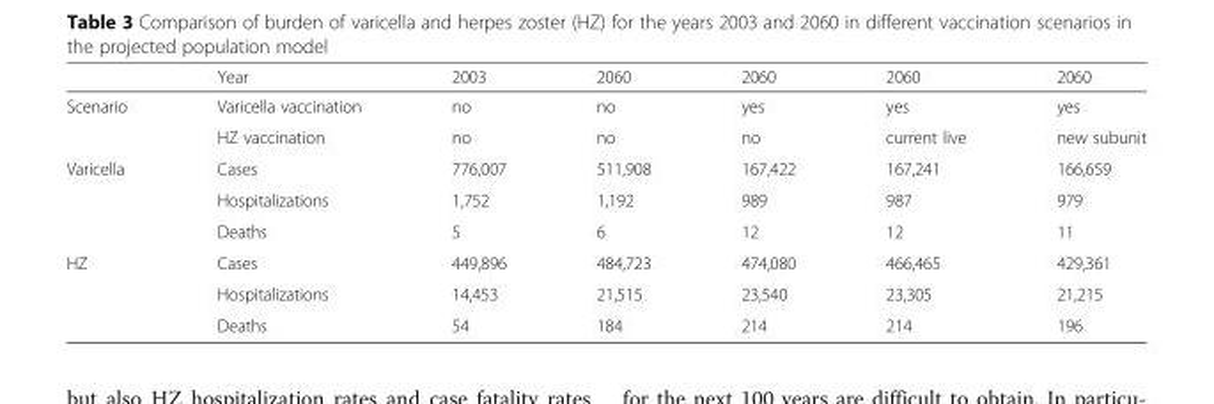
<table><thead><tr><td></td><td>Year</td><td>2003</td><td>2060</td><td>2060</td><td>2060</td><td>2060</td></tr></thead><tbody><tr><td rowspan="2">Scenario</td><td>Varicella vaccination</td><td>no</td><td>no</td><td>yes</td><td>yes</td><td>yes</td></tr><tr><td>HZ vaccination</td><td>no</td><td>no</td><td>no</td><td>current live</td><td>new subunit</td></tr><tr><td rowspan="3">Varicella</td><td>Cases</td><td>776,007</td><td>511,908</td><td>167,422</td><td>167,241</td><td>166,659</td></tr><tr><td>Hospitalizations</td><td>1,752</td><td>1,192</td><td>989</td><td>987</td><td>979</td></tr><tr><td>Deaths</td><td>5</td><td>6</td><td>12</td><td>12</td><td>11</td></tr><tr><td rowspan="3">HZ</td><td>Cases</td><td>449,896</td><td>484,723</td><td>474,080</td><td>466,465</td><td>429,361</td></tr><tr><td>Hospitalizations</td><td>14,453</td><td>21,515</td><td>23,540</td><td>23,305</td><td>21,215</td></tr><tr><td>Deaths</td><td>54</td><td>184</td><td>214</td><td>214</td><td>196</td></tr></tbody></table>